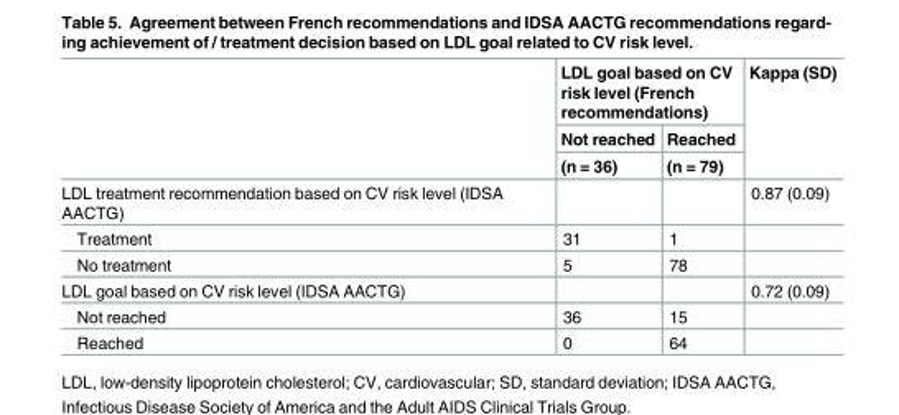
<table><thead><tr><td rowspan="3"></td><td colspan="2">LDL goal based on CV risk level (French recommendations)</td><td rowspan="3">Kappa (SD)</td></tr><tr><td rowspan="2">Not reached (n = 36)</td><td rowspan="2">Reached (n = 79)</td></tr><tr></tr></thead><tbody><tr><td>LDL treatment recommendation based on CV risk level (IDSA AACTG)</td><td></td><td></td><td>0.87 (0.09)</td></tr><tr><td>Treatment</td><td>31</td><td>1</td><td></td></tr><tr><td>No treatment</td><td>5</td><td>78</td><td></td></tr><tr><td>LDL goal based on CV risk level (IDSA AACTG)</td><td></td><td></td><td>0.72 (0.09)</td></tr><tr><td>Not reached</td><td>36</td><td>15</td><td></td></tr><tr><td>Reached</td><td>0</td><td>64</td><td></td></tr></tbody></table>